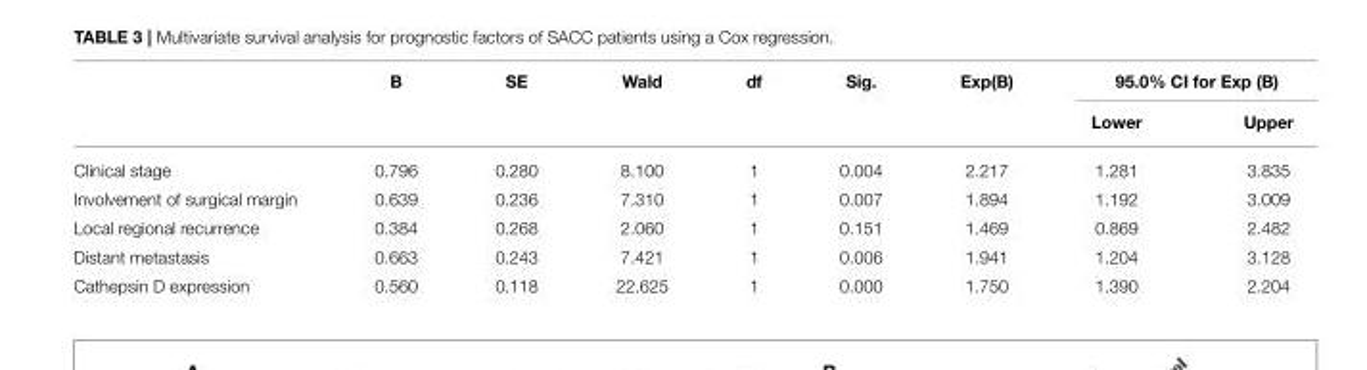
<table><thead><tr><td rowspan="2"></td><td rowspan="2">B</td><td rowspan="2">SE</td><td rowspan="2">Wald</td><td rowspan="2">df</td><td rowspan="2">Sig.</td><td rowspan="2">Exp(B)</td><td colspan="2">95.0% CI for Exp (B)</td></tr><tr><td>Lower</td><td>Upper</td></tr></thead><tbody><tr><td>Clinical stage</td><td>0.796</td><td>0.280</td><td>8.100</td><td>1</td><td>0.004</td><td>2.217</td><td>1.281</td><td>3.835</td></tr><tr><td>Involvement of surgical margin</td><td>0.639</td><td>0.236</td><td>7.310</td><td>1</td><td>0.007</td><td>1.894</td><td>1.192</td><td>3.009</td></tr><tr><td>Local regional recurrence</td><td>0.384</td><td>0.268</td><td>2.060</td><td>1</td><td>0.151</td><td>1.469</td><td>0.869</td><td>2.482</td></tr><tr><td>Distant metastasis</td><td>0.663</td><td>0.243</td><td>7.421</td><td>1</td><td>0.006</td><td>1.941</td><td>1.204</td><td>3.128</td></tr><tr><td>Cathepsin D expression</td><td>0.560</td><td>0.118</td><td>22.625</td><td>1</td><td>0.000</td><td>1.750</td><td>1.390</td><td>2.204</td></tr></tbody></table>